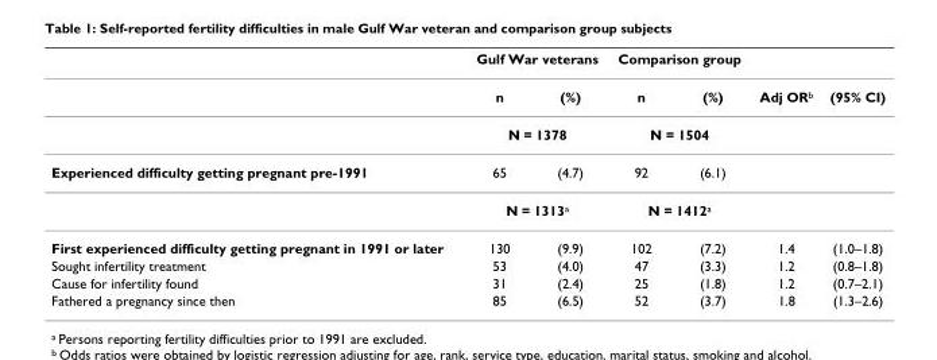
<table><thead><tr><td rowspan="2"></td><td colspan="2">Gulf War veterans</td><td colspan="2">Comparison group</td><td rowspan="2">Adj OR<sup>b</sup></td><td rowspan="2">(95% CI)</td></tr><tr><td>n</td><td>(%)</td><td>n</td><td>(%)</td></tr></thead><tbody><tr><td></td><td colspan="2">N = 1378</td><td colspan="2">N = 1504</td><td></td><td></td></tr><tr><td rowspan="2">Experienced difficulty getting pregnant pre-1991</td><td>65</td><td>(4.7)</td><td>92</td><td>(6.1)</td><td></td><td></td></tr><tr><td colspan="2">N = 1313<sup>a</sup></td><td colspan="2">N = 1412<sup>a</sup></td><td></td><td></td></tr><tr><td>First experienced difficulty getting pregnant in 1991 or later</td><td>130</td><td>(9.9)</td><td>102</td><td>(7.2)</td><td>1.4</td><td>(1.0–1.8)</td></tr><tr><td>Sought infertility treatment</td><td>53</td><td>(4.0)</td><td>47</td><td>(3.3)</td><td>1.2</td><td>(0.8–1.8)</td></tr><tr><td>Cause for infertility found</td><td>31</td><td>(2.4)</td><td>25</td><td>(1.8)</td><td>1.2</td><td>(0.7–2.1)</td></tr><tr><td>Fathered a pregnancy since then</td><td>85</td><td>(6.5)</td><td>52</td><td>(3.7)</td><td>1.8</td><td>(1.3–2.6)</td></tr></tbody></table>